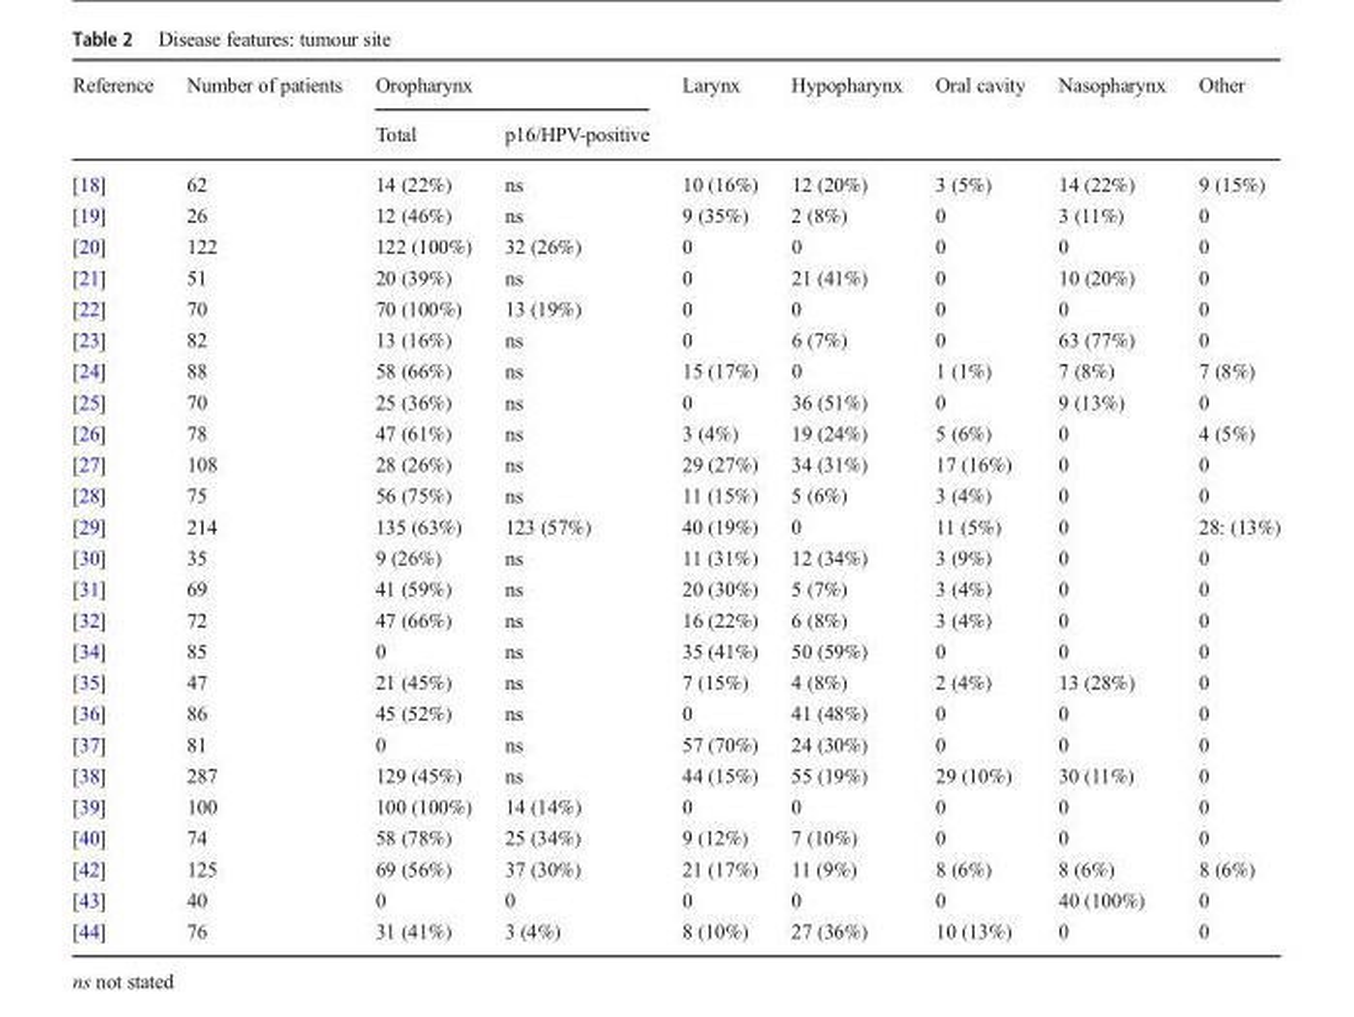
<table><thead><tr><td rowspan="2">Reference</td><td rowspan="2">Number of patients</td><td colspan="2">Oropharynx</td><td rowspan="2">Larynx</td><td rowspan="2">Hypopharynx</td><td rowspan="2">Oral cavity</td><td rowspan="2">Nasopharynx</td><td rowspan="2">Other</td></tr><tr><td>Total</td><td>p16/HPV-positive</td></tr></thead><tbody><tr><td>[18]</td><td>62</td><td>14 (22%)</td><td>ns</td><td>10 (16%)</td><td>12 (20%)</td><td>3 (5%)</td><td>14 (22%)</td><td>9 (15%)</td></tr><tr><td>[19]</td><td>26</td><td>12 (46%)</td><td>ns</td><td>9 (35%)</td><td>2 (8%)</td><td>0</td><td>3 (11%)</td><td>0</td></tr><tr><td>[20]</td><td>122</td><td>122 (100%)</td><td>32 (26%)</td><td>0</td><td>0</td><td>0</td><td>0</td><td>0</td></tr><tr><td>[21]</td><td>51</td><td>20 (39%)</td><td>ns</td><td>0</td><td>21 (41%)</td><td>0</td><td>10 (20%)</td><td>0</td></tr><tr><td>[22]</td><td>70</td><td>70 (100%)</td><td>13 (19%)</td><td>0</td><td>0</td><td>0</td><td>0</td><td>0</td></tr><tr><td>[23]</td><td>82</td><td>13 (16%)</td><td>ns</td><td>0</td><td>6 (7%)</td><td>0</td><td>63 (77%)</td><td>0</td></tr><tr><td>[24]</td><td>88</td><td>58 (66%)</td><td>ns</td><td>15 (17%)</td><td>0</td><td>1 (1%)</td><td>7 (8%)</td><td>7 (8%)</td></tr><tr><td>[25]</td><td>70</td><td>25 (36%)</td><td>ns</td><td>0</td><td>36 (51%)</td><td>0</td><td>9 (13%)</td><td>0</td></tr><tr><td>[26]</td><td>78</td><td>47 (61%)</td><td>ns</td><td>3 (4%)</td><td>19 (24%)</td><td>5 (6%)</td><td>0</td><td>4 (5%)</td></tr><tr><td>[27]</td><td>108</td><td>28 (26%)</td><td>ns</td><td>29 (27%)</td><td>34 (31%)</td><td>17 (16%)</td><td>0</td><td>0</td></tr><tr><td>[28]</td><td>75</td><td>56 (75%)</td><td>ns</td><td>11 (15%)</td><td>5 (6%)</td><td>3 (4%)</td><td>0</td><td>0</td></tr><tr><td>[29]</td><td>214</td><td>135 (63%)</td><td>123 (57%)</td><td>40 (19%)</td><td>0</td><td>11 (5%)</td><td>0</td><td>28: (13%)</td></tr><tr><td>[30]</td><td>35</td><td>9 (26%)</td><td>ns</td><td>11 (31%)</td><td>12 (34%)</td><td>3 (9%)</td><td>0</td><td>0</td></tr><tr><td>[31]</td><td>69</td><td>41 (59%)</td><td>ns</td><td>20 (30%)</td><td>5 (7%)</td><td>3 (4%)</td><td>0</td><td>0</td></tr><tr><td>[32]</td><td>72</td><td>47 (66%)</td><td>ns</td><td>16 (22%)</td><td>6 (8%)</td><td>3 (4%)</td><td>0</td><td>0</td></tr><tr><td>[34]</td><td>85</td><td>0</td><td>ns</td><td>35 (41%)</td><td>50 (59%)</td><td>0</td><td>0</td><td>0</td></tr><tr><td>[35]</td><td>47</td><td>21 (45%)</td><td>ns</td><td>7 (15%)</td><td>4 (8%)</td><td>2 (4%)</td><td>13 (28%)</td><td>0</td></tr><tr><td>[36]</td><td>86</td><td>45 (52%)</td><td>ns</td><td>0</td><td>41 (48%)</td><td>0</td><td>0</td><td>0</td></tr><tr><td>[37]</td><td>81</td><td>0</td><td>ns</td><td>57 (70%)</td><td>24 (30%)</td><td>0</td><td>0</td><td>0</td></tr><tr><td>[38]</td><td>287</td><td>129 (45%)</td><td>ns</td><td>44 (15%)</td><td>55 (19%)</td><td>29 (10%)</td><td>30 (11%)</td><td>0</td></tr><tr><td>[39]</td><td>100</td><td>100 (100%)</td><td>14 (14%)</td><td>0</td><td>0</td><td>0</td><td>0</td><td>0</td></tr><tr><td>[40]</td><td>74</td><td>58 (78%)</td><td>25 (34%)</td><td>9 (12%)</td><td>7 (10%)</td><td>0</td><td>0</td><td>0</td></tr><tr><td>[42]</td><td>125</td><td>69 (56%)</td><td>37 (30%)</td><td>21 (17%)</td><td>11 (9%)</td><td>8 (6%)</td><td>8 (6%)</td><td>8 (6%)</td></tr><tr><td>[43]</td><td>40</td><td>0</td><td>0</td><td>0</td><td>0</td><td>0</td><td>40 (100%)</td><td>0</td></tr><tr><td>[44]</td><td>76</td><td>31 (41%)</td><td>3 (4%)</td><td>8 (10%)</td><td>27 (36%)</td><td>10 (13%)</td><td>0</td><td>0</td></tr></tbody></table>